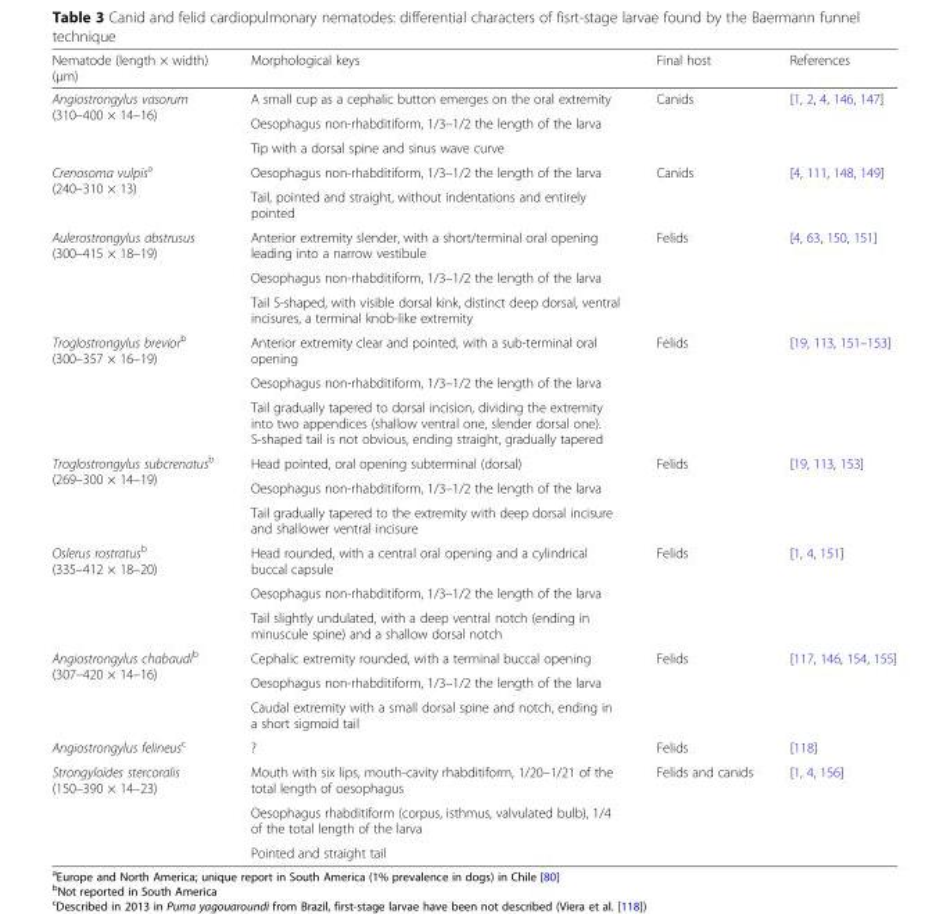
<table><thead><tr><td>Nematode (length × width) (μm)</td><td>Morphological keys</td><td>Final host</td><td>References</td></tr></thead><tbody><tr><td rowspan="3">Angiostrongylus vasorum (310–400 × 14–16)</td><td>A small cup as a cephalic button emerges on the oral extremity</td><td rowspan="3">Canids</td><td rowspan="3">[1, 2, 4, 146, 147]</td></tr><tr><td>Oesophagus non-rhabditiform, 1/3–1/2 the length of the larva</td></tr><tr><td>Tip with a dorsal spine and sinus wave curve</td></tr><tr><td rowspan="2">Crenosoma vulpis<sup>a</sup> (240–310 × 13)</td><td>Oesophagus non-rhabditiform, 1/3–1/2 the length of the larva</td><td rowspan="2">Canids</td><td rowspan="2">[4, 111, 148, 149]</td></tr><tr><td>Tail, pointed and straight, without indentations and entirely pointed</td></tr><tr><td rowspan="3">Aulerostrongylus abstrusus (300–415 × 18–19)</td><td>Anterior extremity slender, with a short/terminal oral opening leading into a narrow vestibule</td><td rowspan="3">Felids</td><td rowspan="3">[4, 63, 150, 151]</td></tr><tr><td>Oesophagus non-rhabditiform, 1/3–1/2 the length of the larva</td></tr><tr><td>Tail S-shaped, with visible dorsal kink, distinct deep dorsal, ventral incisures, a terminal knob-like extremity</td></tr><tr><td rowspan="3">Troglostrongylus brevior<sup>b</sup> (300–357 × 16–19)</td><td>Anterior extremity clear and pointed, with a sub-terminal oral opening</td><td rowspan="3">Felids</td><td rowspan="3">[19, 113, 151–153]</td></tr><tr><td>Oesophagus non-rhabditiform, 1/3–1/2 the length of the larva</td></tr><tr><td>Tail gradually tapered to dorsal incision, dividing the extremity into two appendices (shallow ventral one, slender dorsal one). S-shaped tail is not obvious, ending straight, gradually tapered</td></tr><tr><td rowspan="3">Troglostrongylus subcrenatus<sup>b</sup> (269–300 × 14–19)</td><td>Head pointed, oral opening subterminal (dorsal)</td><td rowspan="3">Felids</td><td rowspan="3">[19, 113, 153]</td></tr><tr><td>Oesophagus non-rhabditiform, 1/3–1/2 the length of the larva</td></tr><tr><td>Tail gradually tapered to the extremity with deep dorsal incisure and shallower ventral incisure</td></tr><tr><td rowspan="3">Oslerus rostratus<sup>b</sup> (335–412 × 18–20)</td><td>Head rounded, with a central oral opening and a cylindrical buccal capsule</td><td rowspan="3">Felids</td><td rowspan="3">[1, 4, 151]</td></tr><tr><td>Oesophagus non-rhabditiform, 1/3–1/2 the length of the larva</td></tr><tr><td>Tail slightly undulated, with a deep ventral notch (ending in minuscule spine) and a shallow dorsal notch</td></tr><tr><td rowspan="3">Angiostrongylus chabaudi<sup>b</sup> (307–420 × 14–16)</td><td>Cephalic extremity rounded, with a terminal buccal opening</td><td rowspan="3">Felids</td><td rowspan="3">[117, 146, 154, 155]</td></tr><tr><td>Oesophagus non-rhabditiform, 1/3–1/2 the length of the larva</td></tr><tr><td>Caudal extremity with a small dorsal spine and notch, ending in a short sigmoid tail</td></tr><tr><td>Angiostrongylus felineus<sup>c</sup></td><td>?</td><td>Felids</td><td>[118]</td></tr><tr><td rowspan="3">Strongyloides stercoralis (150–390 × 14–23)</td><td>Mouth with six lips, mouth-cavity rhabditiform, 1/20–1/21 of the total length of oesophagus</td><td rowspan="3">Felids and canids</td><td rowspan="3">[1, 4, 156]</td></tr><tr><td>Oesophagus rhabditiform (corpus, isthmus, valvulated bulb), 1/4 of the total length of the larva</td></tr><tr><td>Pointed and straight tail</td></tr></tbody></table>